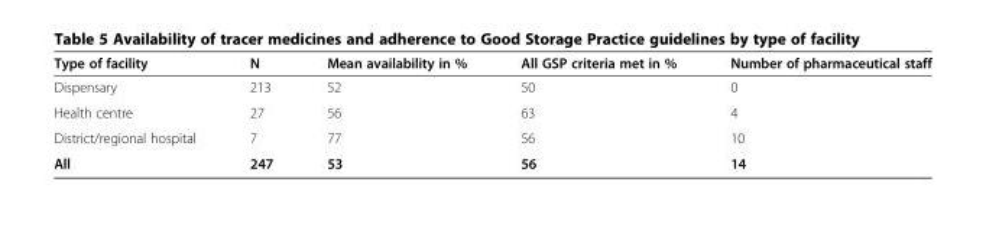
<table><thead><tr><td>Type of facility</td><td>N</td><td>Mean availability in %</td><td>All GSP criteria met in %</td><td>Number of pharmaceutical staff</td></tr></thead><tbody><tr><td>Dispensary</td><td>213</td><td>52</td><td>50</td><td>0</td></tr><tr><td>Health centre</td><td>27</td><td>56</td><td>63</td><td>4</td></tr><tr><td>District/regional hospital</td><td>7</td><td>77</td><td>56</td><td>10</td></tr><tr><td>All</td><td>247</td><td>53</td><td>56</td><td>14</td></tr></tbody></table>